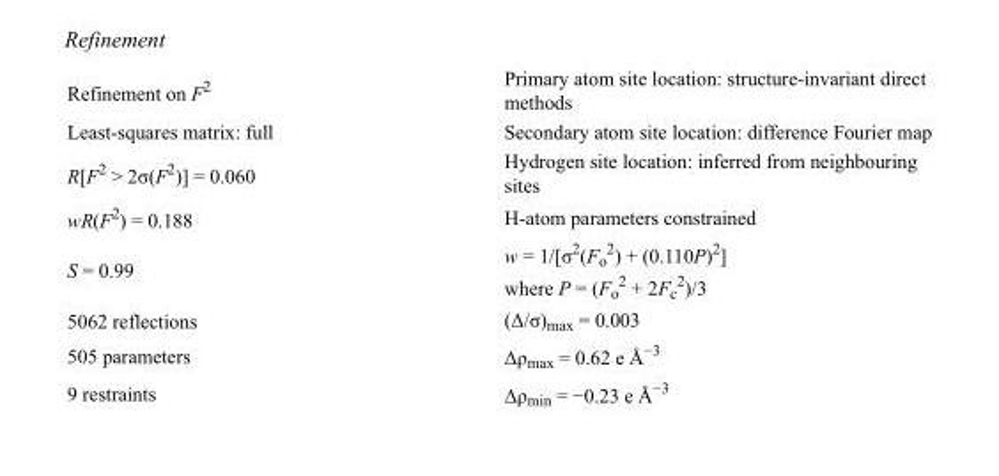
<table><tbody><tr><td>Refinement on F<sup>2</sup></td><td>Primary atom site location: structure-invariant direct methods</td></tr><tr><td>Least-squares matrix: full</td><td>Secondary atom site location: difference Fourier map</td></tr><tr><td>R[F<sup>2</sup> &gt; 2σ(F<sup>2</sup>)] = 0.060</td><td>Hydrogen site location: inferred from neighbouring sites</td></tr><tr><td>wR(F<sup>2</sup>) = 0.188</td><td>H-atom parameters constrained</td></tr><tr><td>S = 0.99</td><td>w = 1/[σ<sup>2</sup>(F<sub>o</sub> <sup>2</sup>) + (0.110P)<sup>2</sup>] where P = (F<sub>o</sub> <sup>2</sup> + 2F<sub>c</sub> <sup>2</sup>)/3</td></tr><tr><td>5062 reflections</td><td>(Δ/σ)<sub>max</sub> = 0.003</td></tr><tr><td>505 parameters</td><td>Δρ<sub>max</sub> = 0.62 e Å<sup>−3</sup></td></tr><tr><td>9 restraints</td><td>Δρ<sub>min</sub> = −0.23 e Å<sup>−3</sup></td></tr></tbody></table>